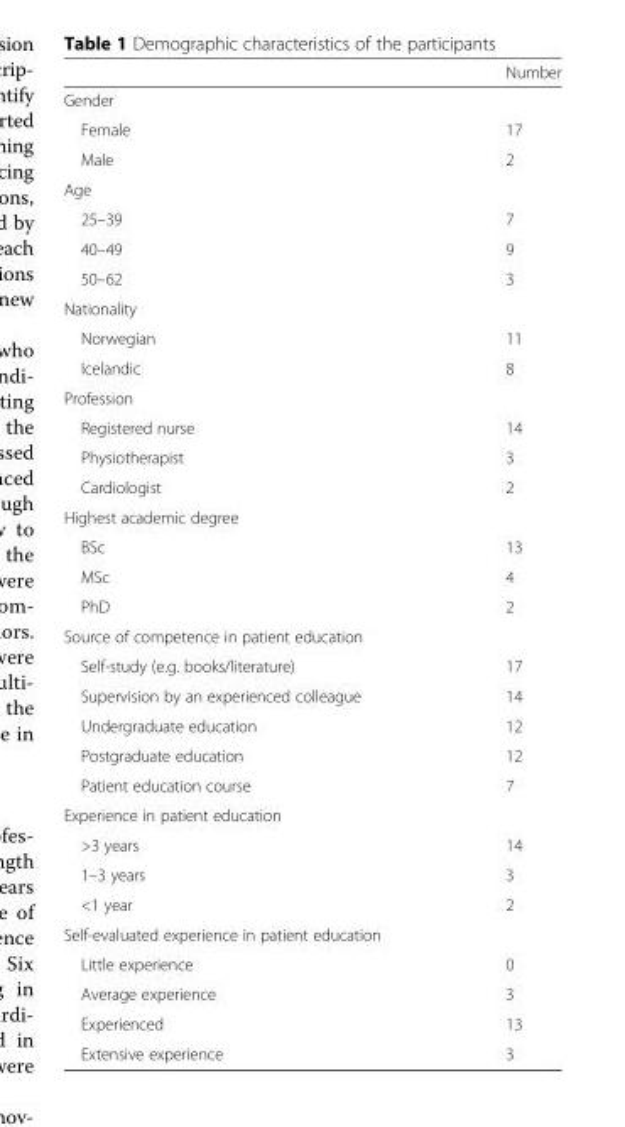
<table><thead><tr><td></td><td>Number</td></tr></thead><tbody><tr><td colspan="2">Gender</td></tr><tr><td>Female</td><td>17</td></tr><tr><td>Male</td><td>2</td></tr><tr><td colspan="2">Age</td></tr><tr><td>25–39</td><td>7</td></tr><tr><td>40–49</td><td>9</td></tr><tr><td>50–62</td><td>3</td></tr><tr><td colspan="2">Nationality</td></tr><tr><td>Norwegian</td><td>11</td></tr><tr><td>Icelandic</td><td>8</td></tr><tr><td colspan="2">Profession</td></tr><tr><td>Registered nurse</td><td>14</td></tr><tr><td>Physiotherapist</td><td>3</td></tr><tr><td>Cardiologist</td><td>2</td></tr><tr><td colspan="2">Highest academic degree</td></tr><tr><td>BSc</td><td>13</td></tr><tr><td>MSc</td><td>4</td></tr><tr><td>PhD</td><td>2</td></tr><tr><td colspan="2">Source of competence in patient education</td></tr><tr><td>Self-study (e.g. books/literature)</td><td>17</td></tr><tr><td>Supervision by an experienced colleague</td><td>14</td></tr><tr><td>Undergraduate education</td><td>12</td></tr><tr><td>Postgraduate education</td><td>12</td></tr><tr><td>Patient education course</td><td>7</td></tr><tr><td colspan="2">Experience in patient education</td></tr><tr><td>&gt;3 years</td><td>14</td></tr><tr><td>1–3 years</td><td>3</td></tr><tr><td>&lt;1 year</td><td>2</td></tr><tr><td colspan="2">Self-evaluated experience in patient education</td></tr><tr><td>Little experience</td><td>0</td></tr><tr><td>Average experience</td><td>3</td></tr><tr><td>Experienced</td><td>13</td></tr><tr><td>Extensive experience</td><td>3</td></tr></tbody></table>